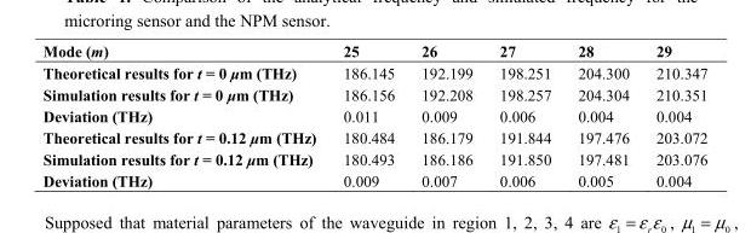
<table><thead><tr><td>Mode (m)</td><td>25</td><td>26</td><td>27</td><td>28</td><td>29</td></tr></thead><tbody><tr><td>Theoretical results for t = 0 μm (THz)</td><td>186.145</td><td>192.199</td><td>198.251</td><td>204.300</td><td>210.347</td></tr><tr><td>Simulation results for t = 0 μm (THz)</td><td>186.156</td><td>192.208</td><td>198.257</td><td>204.304</td><td>210.351</td></tr><tr><td>Deviation (THz)</td><td>0.011</td><td>0.009</td><td>0.006</td><td>0.004</td><td>0.004</td></tr><tr><td>Theoretical results for t = 0.12 μm (THz)</td><td>180.484</td><td>186.179</td><td>191.844</td><td>197.476</td><td>203.072</td></tr><tr><td>Simulation results for t = 0.12 μm (THz)</td><td>180.493</td><td>186.186</td><td>191.850</td><td>197.481</td><td>203.076</td></tr><tr><td>Deviation (THz)</td><td>0.009</td><td>0.007</td><td>0.006</td><td>0.005</td><td>0.004</td></tr></tbody></table>